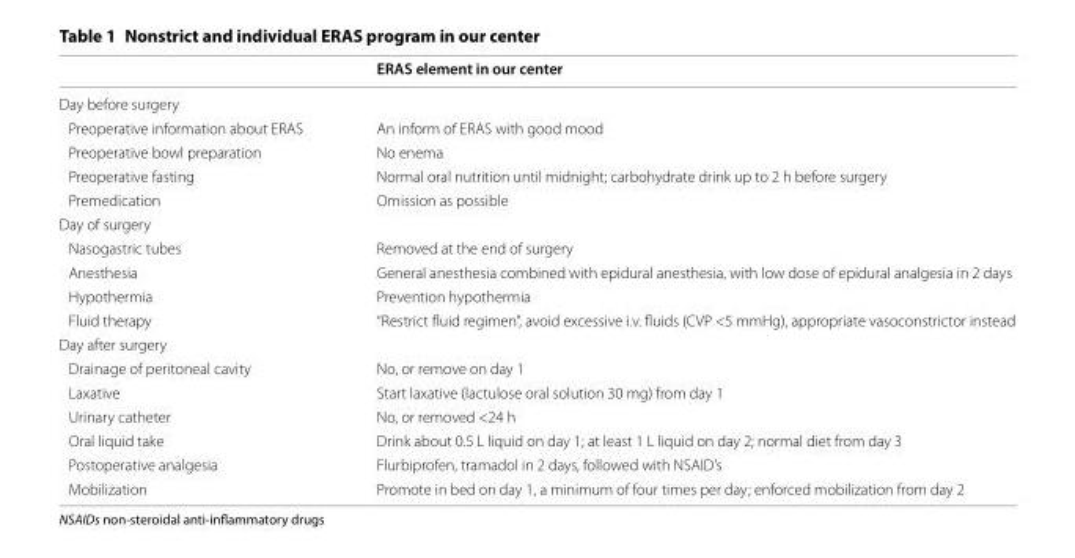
<table><thead><tr><td></td><td>ERAS element in our center</td></tr></thead><tbody><tr><td colspan="2">Day before surgery</td></tr><tr><td>Preoperative information about ERAS</td><td>An inform of ERAS with good mood</td></tr><tr><td>Preoperative bowl preparation</td><td>No enema</td></tr><tr><td>Preoperative fasting</td><td>Normal oral nutrition until midnight; carbohydrate drink up to 2 h before surgery</td></tr><tr><td>Premedication</td><td>Omission as possible</td></tr><tr><td colspan="2">Day of surgery</td></tr><tr><td>Nasogastric tubes</td><td>Removed at the end of surgery</td></tr><tr><td>Anesthesia</td><td>General anesthesia combined with epidural anesthesia, with low dose of epidural analgesia in 2 days</td></tr><tr><td>Hypothermia</td><td>Prevention hypothermia</td></tr><tr><td>Fluid therapy</td><td>“Restrict fluid regimen”, avoid excessive i.v. fluids (CVP &lt;5 mmHg), appropriate vasoconstrictor instead</td></tr><tr><td colspan="2">Day after surgery</td></tr><tr><td>Drainage of peritoneal cavity</td><td>No, or remove on day 1</td></tr><tr><td>Laxative</td><td>Start laxative (lactulose oral solution 30 mg) from day 1</td></tr><tr><td>Urinary catheter</td><td>No, or removed &lt;24 h</td></tr><tr><td>Oral liquid take</td><td>Drink about 0.5 L liquid on day 1; at least 1 L liquid on day 2; normal diet from day 3</td></tr><tr><td>Postoperative analgesia</td><td>Flurbiprofen, tramadol in 2 days, followed with NSAID’s</td></tr><tr><td>Mobilization</td><td>Promote in bed on day 1, a minimum of four times per day; enforced mobilization from day 2</td></tr></tbody></table>